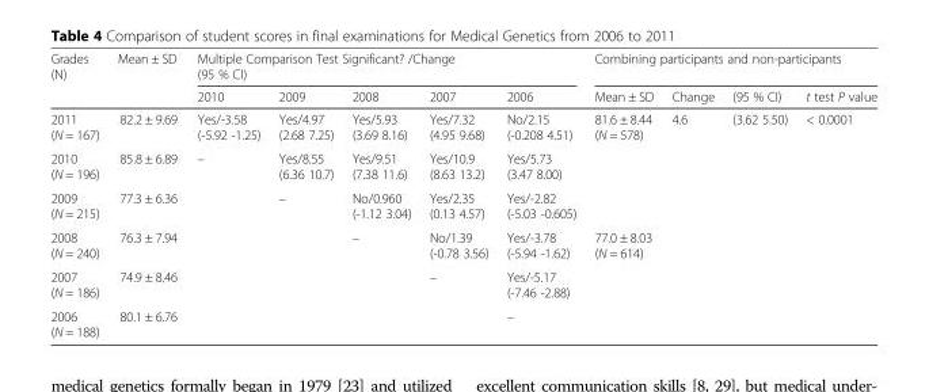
<table><thead><tr><td rowspan="2">Grades (N)</td><td rowspan="2">Mean ± SD</td><td colspan="5">Multiple Comparison Test Significant? /Change (95 % CI)</td><td colspan="4">Combining participants and non-participants</td></tr><tr><td>2010</td><td>2009</td><td>2008</td><td>2007</td><td>2006</td><td>Mean ± SD</td><td>Change</td><td>(95 % CI)</td><td>t test P value</td></tr></thead><tbody><tr><td>2011 (N = 167)</td><td>82.2 ± 9.69</td><td>Yes/-3.58 (-5.92 -1.25)</td><td>Yes/4.97 (2.68 7.25)</td><td>Yes/5.93 (3.69 8.16)</td><td>Yes/7.32 (4.95 9.68)</td><td>No/2.15 (-0.208 4.51)</td><td rowspan="3">81.6 ± 8.44 (N = 578)</td><td rowspan="6">4.6</td><td rowspan="6">(3.62 5.50)</td><td rowspan="6">&lt; 0.0001</td></tr><tr><td>2010 (N = 196)</td><td>85.8 ± 6.89</td><td>–</td><td>Yes/8.55 (6.36 10.7)</td><td>Yes/9.51 (7.38 11.6)</td><td>Yes/10.9 (8.63 13.2)</td><td>Yes/5.73 (3.47 8.00)</td></tr><tr><td>2009 (N = 215)</td><td>77.3 ± 6.36</td><td></td><td>–</td><td>No/0.960 (-1.12 3.04)</td><td>Yes/2.35 (0.13 4.57)</td><td>Yes/-2.82 (-5.03 -0.605)</td></tr><tr><td>2008 (N = 240)</td><td>76.3 ± 7.94</td><td></td><td></td><td>–</td><td>No/1.39 (-0.78 3.56)</td><td>Yes/-3.78 (-5.94 -1.62)</td><td rowspan="3">77.0 ± 8.03 (N = 614)</td></tr><tr><td>2007 (N = 186)</td><td>74.9 ± 8.46</td><td></td><td></td><td></td><td>–</td><td>Yes/-5.17 (-7.46 -2.88)</td></tr><tr><td>2006 (N = 188)</td><td>80.1 ± 6.76</td><td></td><td></td><td></td><td></td><td>–</td></tr></tbody></table>